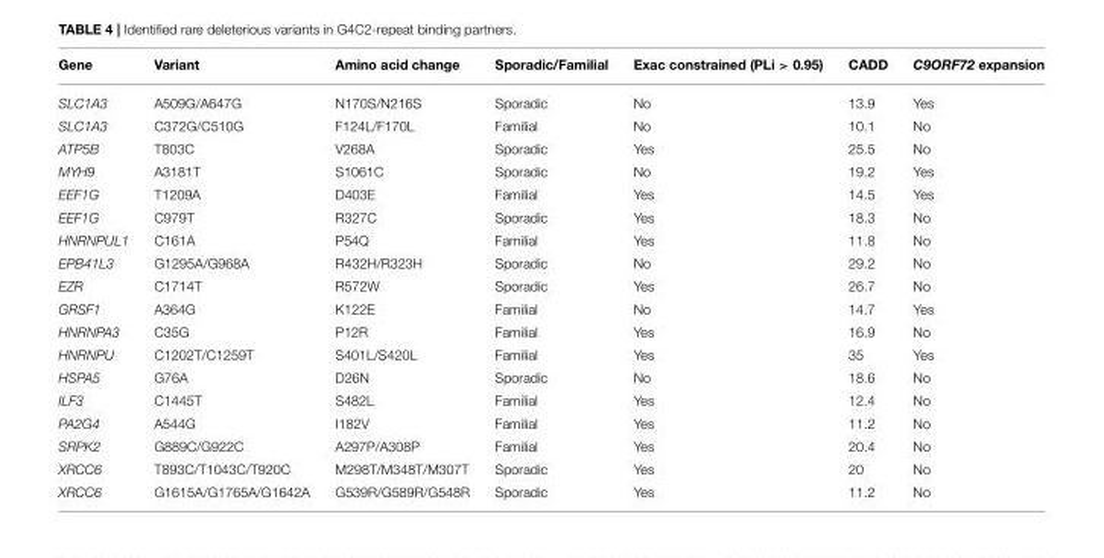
<table><thead><tr><td>Gene</td><td>Variant</td><td>Amino acid change</td><td>Sporadic/Familial</td><td>Exac constrained (PLi &gt; 0.95)</td><td>CADD</td><td>C9ORF72 expansion</td></tr></thead><tbody><tr><td>SLC1A3</td><td>A509G/A647G</td><td>N170S/N216S</td><td>Sporadic</td><td>No</td><td>13.9</td><td>Yes</td></tr><tr><td>SLC1A3</td><td>C372G/C510G</td><td>F124L/F170L</td><td>Familial</td><td>No</td><td>10.1</td><td>No</td></tr><tr><td>ATP5B</td><td>T803C</td><td>V268A</td><td>Sporadic</td><td>Yes</td><td>25.5</td><td>No</td></tr><tr><td>MYH9</td><td>A3181T</td><td>S1061C</td><td>Sporadic</td><td>No</td><td>19.2</td><td>Yes</td></tr><tr><td>EEF1G</td><td>T1209A</td><td>D403E</td><td>Familial</td><td>Yes</td><td>14.5</td><td>Yes</td></tr><tr><td>EEF1G</td><td>C979T</td><td>R327C</td><td>Sporadic</td><td>Yes</td><td>18.3</td><td>No</td></tr><tr><td>HNRNPUL1</td><td>C161A</td><td>P54Q</td><td>Familial</td><td>Yes</td><td>11.8</td><td>No</td></tr><tr><td>EPB41L3</td><td>G1295A/G968A</td><td>R432H/R323H</td><td>Sporadic</td><td>No</td><td>29.2</td><td>No</td></tr><tr><td>EZR</td><td>C1714T</td><td>R572W</td><td>Sporadic</td><td>Yes</td><td>26.7</td><td>No</td></tr><tr><td>GRSF1</td><td>A364G</td><td>K122E</td><td>Familial</td><td>No</td><td>14.7</td><td>Yes</td></tr><tr><td>HNRNPA3</td><td>C35G</td><td>P12R</td><td>Familial</td><td>Yes</td><td>16.9</td><td>No</td></tr><tr><td>HNRNPU</td><td>C1202T/C1259T</td><td>S401L/S420L</td><td>Familial</td><td>Yes</td><td>35</td><td>Yes</td></tr><tr><td>HSPA5</td><td>G76A</td><td>D26N</td><td>Sporadic</td><td>No</td><td>18.6</td><td>No</td></tr><tr><td>ILF3</td><td>C1445T</td><td>S482L</td><td>Familial</td><td>Yes</td><td>12.4</td><td>No</td></tr><tr><td>PA2G4</td><td>A544G</td><td>I182V</td><td>Familial</td><td>Yes</td><td>11.2</td><td>No</td></tr><tr><td>SRPK2</td><td>G889C/G922C</td><td>A297P/A308P</td><td>Familial</td><td>Yes</td><td>20.4</td><td>No</td></tr><tr><td>XRCC6</td><td>T893C/T1043C/T920C</td><td>M298T/M348T/M307T</td><td>Sporadic</td><td>Yes</td><td>20</td><td>No</td></tr><tr><td>XRCC6</td><td>G1615A/G1765A/G1642A</td><td>G539R/G589R/G548R</td><td>Sporadic</td><td>Yes</td><td>11.2</td><td>No</td></tr></tbody></table>